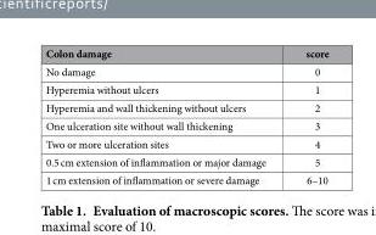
<table><thead><tr><td>Colon damage</td><td>score</td></tr></thead><tbody><tr><td>No damage</td><td>0</td></tr><tr><td>Hyperemia without ulcers</td><td>1</td></tr><tr><td>Hyperemia and wall thickening without ulcers</td><td>2</td></tr><tr><td>One ulceration site without wall thickening</td><td>3</td></tr><tr><td>Two or more ulceration sites</td><td>4</td></tr><tr><td>0.5 cm extension of inflammation or major damage</td><td>5</td></tr><tr><td>1 cm extension of inflammation or severe damage</td><td>6–10</td></tr></tbody></table>